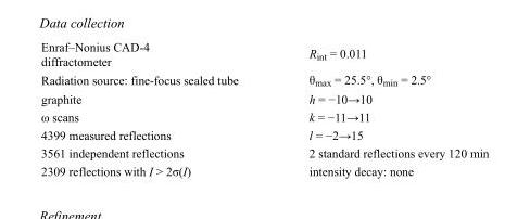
<table><tbody><tr><td>Enraf–Nonius CAD-4 diffractometer</td><td>R<sub>int</sub> = 0.011</td></tr><tr><td>Radiation source: fine-focus sealed tube</td><td>θ<sub>max</sub> = 25.5°, θ<sub>min</sub> = 2.5°</td></tr><tr><td>graphite</td><td>h = −10→10</td></tr><tr><td>ω scans</td><td>k = −11→11</td></tr><tr><td>4399 measured reflections</td><td>l = −2→15</td></tr><tr><td>3561 independent reflections</td><td>2 standard reflections every 120 min</td></tr><tr><td>2309 reflections with I &gt; 2σ(I)</td><td>intensity decay: none</td></tr></tbody></table>